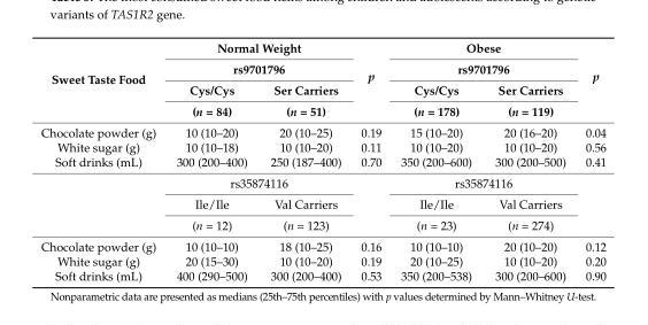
<table><thead><tr><td rowspan="4">Sweet Taste Food</td><td rowspan="2" colspan="2">Normal Weight rs9701796</td><td rowspan="4">p</td><td rowspan="2" colspan="2">Obese rs9701796</td><td rowspan="4">p</td></tr><tr></tr><tr><td rowspan="2">Cys/Cys (n = 84)</td><td rowspan="2">Ser Carriers (n = 51)</td><td rowspan="2">Cys/Cys (n = 178)</td><td rowspan="2">Ser Carriers (n = 119)</td></tr><tr></tr></thead><tbody><tr><td>Chocolate powder (g)</td><td>10 (10–20)</td><td>20 (10–25)</td><td>0.19</td><td>15 (10–20)</td><td>20 (16–20)</td><td>0.04</td></tr><tr><td>White sugar (g)</td><td>10 (10–18)</td><td>10 (10–20)</td><td>0.11</td><td>10 (10–20)</td><td>10 (10–20)</td><td>0.56</td></tr><tr><td rowspan="4">Soft drinks (mL)</td><td>300 (200–400)</td><td>250 (187–400)</td><td>0.70</td><td>350 (200–600)</td><td>300 (200–500)</td><td>0.41</td></tr><tr><td colspan="2">rs35874116</td><td rowspan="3"></td><td colspan="2">rs35874116</td><td rowspan="3"></td></tr><tr><td>Ile/Ile</td><td>Val Carriers</td><td>Ile/Ile</td><td>Val Carriers</td></tr><tr><td>(n = 12)</td><td>(n = 123)</td><td>(n = 23)</td><td>(n = 274)</td></tr><tr><td>Chocolate powder (g)</td><td>10 (10–10)</td><td>18 (10–25)</td><td>0.16</td><td>10 (10–10)</td><td>20 (10–20)</td><td>0.12</td></tr><tr><td>White sugar (g)</td><td>20 (15–30)</td><td>10 (10–20)</td><td>0.19</td><td>20 (10–25)</td><td>10 (10–20)</td><td>0.20</td></tr><tr><td>Soft drinks (mL)</td><td>400 (290–500)</td><td>300 (200–400)</td><td>0.53</td><td>350 (200–538)</td><td>300 (200–600)</td><td>0.90</td></tr></tbody></table>